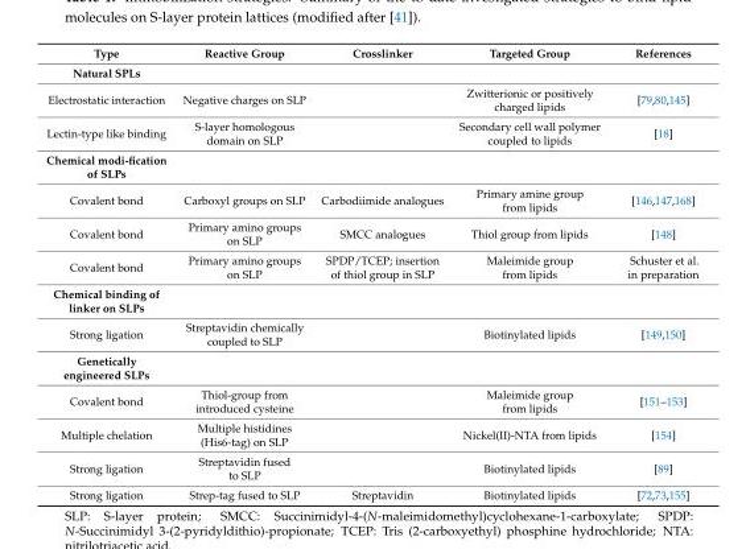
<table><thead><tr><td>Type</td><td>Reactive Group</td><td>Crosslinker</td><td>Targeted Group</td><td>References</td></tr></thead><tbody><tr><td colspan="5">Natural SPLs</td></tr><tr><td>Electrostatic interaction</td><td>Negative charges on SLP</td><td></td><td>Zwitterionic or positively charged lipids</td><td>[79,80,145]</td></tr><tr><td>Lectin-type like binding</td><td>S-layer homologous domain on SLP</td><td></td><td>Secondary cell wall polymer coupled to lipids</td><td>[18]</td></tr><tr><td colspan="5">Chemical modi-fication of SLPs</td></tr><tr><td>Covalent bond</td><td>Carboxyl groups on SLP</td><td>Carbodiimide analogues</td><td>Primary amine group from lipids</td><td>[146,147,168]</td></tr><tr><td>Covalent bond</td><td>Primary amino groups on SLP</td><td>SMCC analogues</td><td>Thiol group from lipids</td><td>[148]</td></tr><tr><td>Covalent bond</td><td>Primary amino groups on SLP</td><td>SPDP/TCEP; insertion of thiol group in SLP</td><td>Maleimide group from lipids</td><td>Schuster et al. in preparation</td></tr><tr><td colspan="5">Chemical binding of linker on SLPs</td></tr><tr><td>Strong ligation</td><td>Streptavidin chemically coupled to SLP</td><td></td><td>Biotinylated lipids</td><td>[149,150]</td></tr><tr><td colspan="5">Genetically engineered SLPs</td></tr><tr><td>Covalent bond</td><td>Thiol-group from introduced cysteine</td><td></td><td>Maleimide group from lipids</td><td>[151–153]</td></tr><tr><td>Multiple chelation</td><td>Multiple histidines (His6-tag) on SLP</td><td></td><td>Nickel(II)-NTA from lipids</td><td>[154]</td></tr><tr><td>Strong ligation</td><td>Streptavidin fused to SLP</td><td></td><td>Biotinylated lipids</td><td>[89]</td></tr><tr><td>Strong ligation</td><td>Strep-tag fused to SLP</td><td>Streptavidin</td><td>Biotinylated lipids</td><td>[72,73,155]</td></tr></tbody></table>